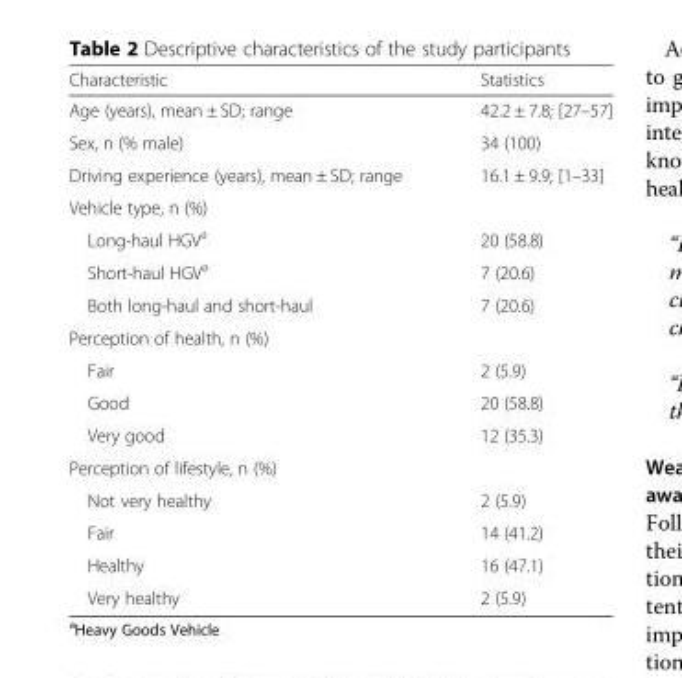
<table><thead><tr><td>Characteristic</td><td>Statistics</td></tr></thead><tbody><tr><td>Age (years), mean ± SD; range</td><td>42.2 ± 7.8; [27–57]</td></tr><tr><td>Sex, n (% male)</td><td>34 (100)</td></tr><tr><td>Driving experience (years), mean ± SD; range</td><td>16.1 ± 9.9; [1–33]</td></tr><tr><td colspan="2">Vehicle type, n (%)</td></tr><tr><td>Long-haul HGV<sup>a</sup></td><td>20 (58.8)</td></tr><tr><td>Short-haul HGV<sup>a</sup></td><td>7 (20.6)</td></tr><tr><td>Both long-haul and short-haul</td><td>7 (20.6)</td></tr><tr><td colspan="2">Perception of health, n (%)</td></tr><tr><td>Fair</td><td>2 (5.9)</td></tr><tr><td>Good</td><td>20 (58.8)</td></tr><tr><td>Very good</td><td>12 (35.3)</td></tr><tr><td colspan="2">Perception of lifestyle, n (%)</td></tr><tr><td>Not very healthy</td><td>2 (5.9)</td></tr><tr><td>Fair</td><td>14 (41.2)</td></tr><tr><td>Healthy</td><td>16 (47.1)</td></tr><tr><td>Very healthy</td><td>2 (5.9)</td></tr></tbody></table>